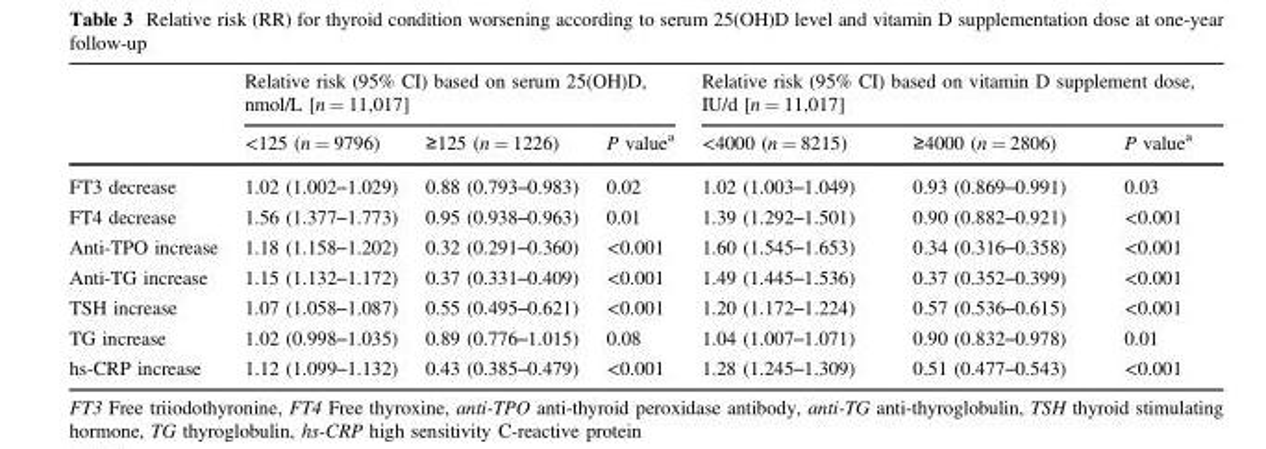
<table><thead><tr><td rowspan="2"></td><td colspan="3">Relative risk (95% CI) based on serum 25(OH)D, nmol/L [n = 11,017]</td><td colspan="3">Relative risk (95% CI) based on vitamin D supplement dose, IU/d [n = 11,017]</td></tr><tr><td>&lt;125 (n = 9796)</td><td>≥125 (n = 1226)</td><td>P value<sup>a</sup></td><td>&lt;4000 (n = 8215)</td><td>≥4000 (n = 2806)</td><td>P value<sup>a</sup></td></tr></thead><tbody><tr><td>FT3 decrease</td><td>1.02 (1.002–1.029)</td><td>0.88 (0.793–0.983)</td><td>0.02</td><td>1.02 (1.003–1.049)</td><td>0.93 (0.869–0.991)</td><td>0.03</td></tr><tr><td>FT4 decrease</td><td>1.56 (1.377–1.773)</td><td>0.95 (0.938–0.963)</td><td>0.01</td><td>1.39 (1.292–1.501)</td><td>0.90 (0.882–0.921)</td><td>&lt;0.001</td></tr><tr><td>Anti-TPO increase</td><td>1.18 (1.158–1.202)</td><td>0.32 (0.291–0.360)</td><td>&lt;0.001</td><td>1.60 (1.545–1.653)</td><td>0.34 (0.316–0.358)</td><td>&lt;0.001</td></tr><tr><td>Anti-TG increase</td><td>1.15 (1.132–1.172)</td><td>0.37 (0.331–0.409)</td><td>&lt;0.001</td><td>1.49 (1.445–1.536)</td><td>0.37 (0.352–0.399)</td><td>&lt;0.001</td></tr><tr><td>TSH increase</td><td>1.07 (1.058–1.087)</td><td>0.55 (0.495–0.621)</td><td>&lt;0.001</td><td>1.20 (1.172–1.224)</td><td>0.57 (0.536–0.615)</td><td>&lt;0.001</td></tr><tr><td>TG increase</td><td>1.02 (0.998–1.035)</td><td>0.89 (0.776–1.015)</td><td>0.08</td><td>1.04 (1.007–1.071)</td><td>0.90 (0.832–0.978)</td><td>0.01</td></tr><tr><td>hs-CRP increase</td><td>1.12 (1.099–1.132)</td><td>0.43 (0.385–0.479)</td><td>&lt;0.001</td><td>1.28 (1.245–1.309)</td><td>0.51 (0.477–0.543)</td><td>&lt;0.001</td></tr></tbody></table>